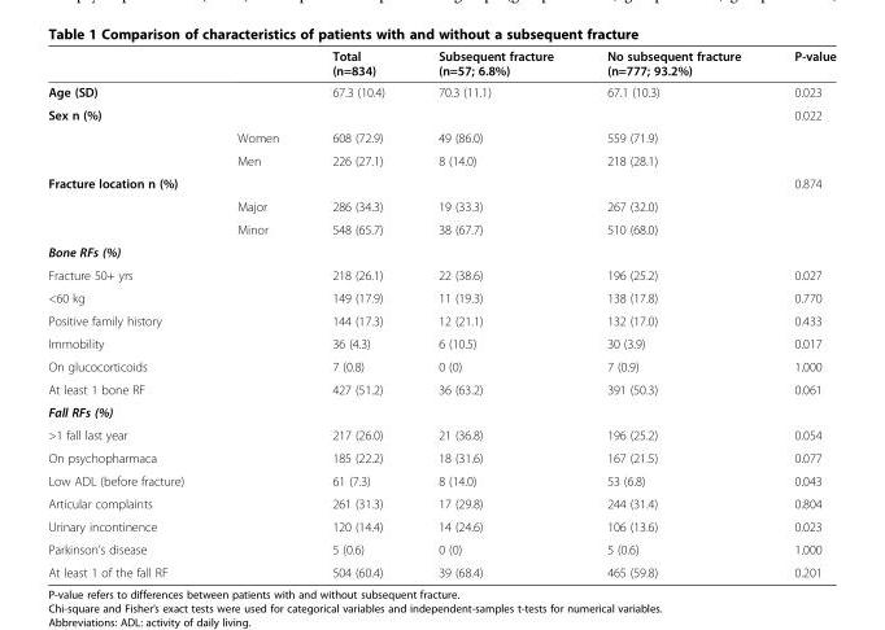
<table><thead><tr><td></td><td></td><td>Total (n=834)</td><td>Subsequent fracture (n=57; 6.8%)</td><td>No subsequent fracture (n=777; 93.2%)</td><td>P-value</td></tr></thead><tbody><tr><td>Age (SD)</td><td></td><td>67.3 (10.4)</td><td>70.3 (11.1)</td><td>67.1 (10.3)</td><td>0.023</td></tr><tr><td rowspan="3">Sex n (%)</td><td></td><td></td><td></td><td></td><td>0.022</td></tr><tr><td>Women</td><td>608 (72.9)</td><td>49 (86.0)</td><td>559 (71.9)</td><td></td></tr><tr><td>Men</td><td>226 (27.1)</td><td>8 (14.0)</td><td>218 (28.1)</td><td></td></tr><tr><td rowspan="3">Fracture location n (%)</td><td></td><td></td><td></td><td></td><td>0.874</td></tr><tr><td>Major</td><td>286 (34.3)</td><td>19 (33.3)</td><td>267 (32.0)</td><td></td></tr><tr><td>Minor</td><td>548 (65.7)</td><td>38 (67.7)</td><td>510 (68.0)</td><td></td></tr><tr><td colspan="6">Bone RFs (%)</td></tr><tr><td>Fracture 50+ yrs</td><td></td><td>218 (26.1)</td><td>22 (38.6)</td><td>196 (25.2)</td><td>0.027</td></tr><tr><td>&lt;60 kg</td><td></td><td>149 (17.9)</td><td>11 (19.3)</td><td>138 (17.8)</td><td>0.770</td></tr><tr><td>Positive family history</td><td></td><td>144 (17.3)</td><td>12 (21.1)</td><td>132 (17.0)</td><td>0.433</td></tr><tr><td>Immobility</td><td></td><td>36 (4.3)</td><td>6 (10.5)</td><td>30 (3.9)</td><td>0.017</td></tr><tr><td>On glucocorticoids</td><td></td><td>7 (0.8)</td><td>0 (0)</td><td>7 (0.9)</td><td>1.000</td></tr><tr><td>At least 1 bone RF</td><td></td><td>427 (51.2)</td><td>36 (63.2)</td><td>391 (50.3)</td><td>0.061</td></tr><tr><td colspan="6">Fall RFs (%)</td></tr><tr><td>&gt;1 fall last year</td><td></td><td>217 (26.0)</td><td>21 (36.8)</td><td>196 (25.2)</td><td>0.054</td></tr><tr><td>On psychopharmaca</td><td></td><td>185 (22.2)</td><td>18 (31.6)</td><td>167 (21.5)</td><td>0.077</td></tr><tr><td>Low ADL (before fracture)</td><td></td><td>61 (7.3)</td><td>8 (14.0)</td><td>53 (6.8)</td><td>0.043</td></tr><tr><td>Articular complaints</td><td></td><td>261 (31.3)</td><td>17 (29.8)</td><td>244 (31.4)</td><td>0.804</td></tr><tr><td>Urinary incontinence</td><td></td><td>120 (14.4)</td><td>14 (24.6)</td><td>106 (13.6)</td><td>0.023</td></tr><tr><td>Parkinson’s disease</td><td></td><td>5 (0.6)</td><td>0 (0)</td><td>5 (0.6)</td><td>1.000</td></tr><tr><td>At least 1 of the fall RF</td><td></td><td>504 (60.4)</td><td>39 (68.4)</td><td>465 (59.8)</td><td>0.201</td></tr></tbody></table>